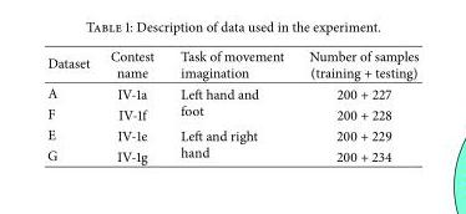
<table><thead><tr><td>Dataset</td><td>Contest name</td><td>Task of movement imagination</td><td>Number of samples (training + testing)</td></tr></thead><tbody><tr><td>A</td><td>IV-1a</td><td rowspan="2">Left hand and foot</td><td>200 + 227</td></tr><tr><td>F</td><td>IV-1f</td><td>200 + 228</td></tr><tr><td>E</td><td>IV-1e</td><td rowspan="2">Left and right hand</td><td>200 + 229</td></tr><tr><td>G</td><td>IV-1g</td><td>200 + 234</td></tr></tbody></table>